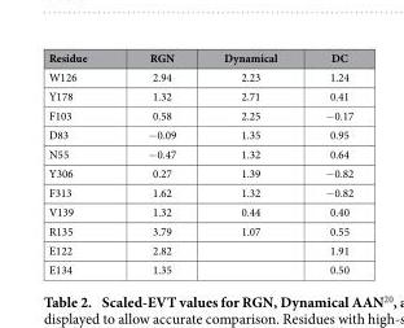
<table><thead><tr><td>Residue</td><td>RGN</td><td>Dynamical</td><td>DC</td></tr></thead><tbody><tr><td>W126</td><td>2.94</td><td>2.23</td><td>1.24</td></tr><tr><td>Y178</td><td>1.32</td><td>2.71</td><td>0.41</td></tr><tr><td>F103</td><td>0.58</td><td>2.25</td><td>− 0.17</td></tr><tr><td>D83</td><td>− 0.09</td><td>1.35</td><td>0.95</td></tr><tr><td>N55</td><td>− 0.47</td><td>1.32</td><td>0.64</td></tr><tr><td>Y306</td><td>0.27</td><td>1.39</td><td>− 0.82</td></tr><tr><td>F313</td><td>1.62</td><td>1.32</td><td>− 0.82</td></tr><tr><td>V139</td><td>1.32</td><td>0.44</td><td>0.40</td></tr><tr><td>R135</td><td>3.79</td><td>1.07</td><td>0.55</td></tr><tr><td>E122</td><td>2.82</td><td></td><td>1.91</td></tr><tr><td>E134</td><td>1.35</td><td></td><td>0.50</td></tr></tbody></table>